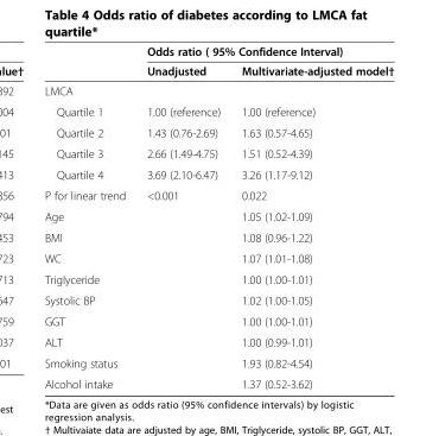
<table><thead><tr><td rowspan="2"></td><td colspan="2">Odds ratio ( 95% Confidence Interval)</td></tr><tr><td>Unadjusted</td><td>Multivariate-adjusted model†</td></tr></thead><tbody><tr><td colspan="3">LMCA</td></tr><tr><td>Quartile 1</td><td>1.00 (reference)</td><td>1.00 (reference)</td></tr><tr><td>Quartile 2</td><td>1.43 (0.76-2.69)</td><td>1.63 (0.57-4.65)</td></tr><tr><td>Quartile 3</td><td>2.66 (1.49-4.75)</td><td>1.51 (0.52-4.39)</td></tr><tr><td>Quartile 4</td><td>3.69 (2.10-6.47)</td><td>3.26 (1.17-9.12)</td></tr><tr><td>P for linear trend</td><td>&lt;0.001</td><td>0.022</td></tr><tr><td>Age</td><td></td><td>1.05 (1.02-1.09)</td></tr><tr><td>BMI</td><td></td><td>1.08 (0.96-1.22)</td></tr><tr><td>WC</td><td></td><td>1.07 (1.01-1.08)</td></tr><tr><td>Triglyceride</td><td></td><td>1.00 (1.00-1.01)</td></tr><tr><td>Systolic BP</td><td></td><td>1.02 (1.00-1.05)</td></tr><tr><td>GGT</td><td></td><td>1.00 (1.00-1.01)</td></tr><tr><td>ALT</td><td></td><td>1.00 (0.99-1.01)</td></tr><tr><td>Smoking status</td><td></td><td>1.93 (0.82-4.54)</td></tr><tr><td>Alcohol intake</td><td></td><td>1.37 (0.52-3.62)</td></tr></tbody></table>